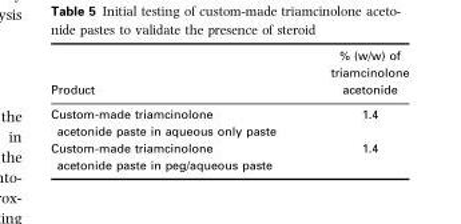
<table><thead><tr><td>Product</td><td>% (w/w) of triamcinolone acetonide</td></tr></thead><tbody><tr><td>Custom-made triamcinolone acetonide paste in aqueous only paste</td><td>1.4</td></tr><tr><td>Custom-made triamcinolone acetonide paste in peg/aqueous paste</td><td>1.4</td></tr></tbody></table>